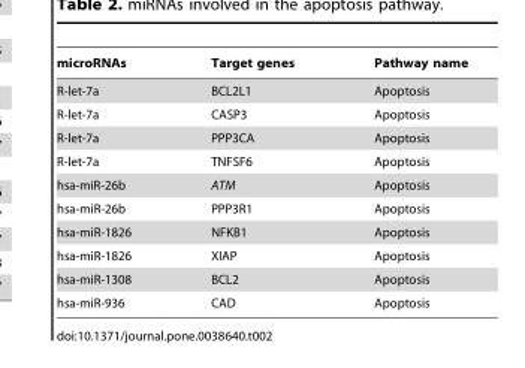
<table><thead><tr><td>microRNAs</td><td>Target genes</td><td>Pathway name</td></tr></thead><tbody><tr><td>R-let-7a</td><td>BCL2L1</td><td>Apoptosis</td></tr><tr><td>R-let-7a</td><td>CASP3</td><td>Apoptosis</td></tr><tr><td>R-let-7a</td><td>PPP3CA</td><td>Apoptosis</td></tr><tr><td>R-let-7a</td><td>TNFSF6</td><td>Apoptosis</td></tr><tr><td>hsa-miR-26b</td><td>ATM</td><td>Apoptosis</td></tr><tr><td>hsa-miR-26b</td><td>PPP3R1</td><td>Apoptosis</td></tr><tr><td>hsa-miR-1826</td><td>NFKB1</td><td>Apoptosis</td></tr><tr><td>hsa-miR-1826</td><td>XIAP</td><td>Apoptosis</td></tr><tr><td>hsa-miR-1308</td><td>BCL2</td><td>Apoptosis</td></tr><tr><td>hsa-miR-936</td><td>CAD</td><td>Apoptosis</td></tr></tbody></table>